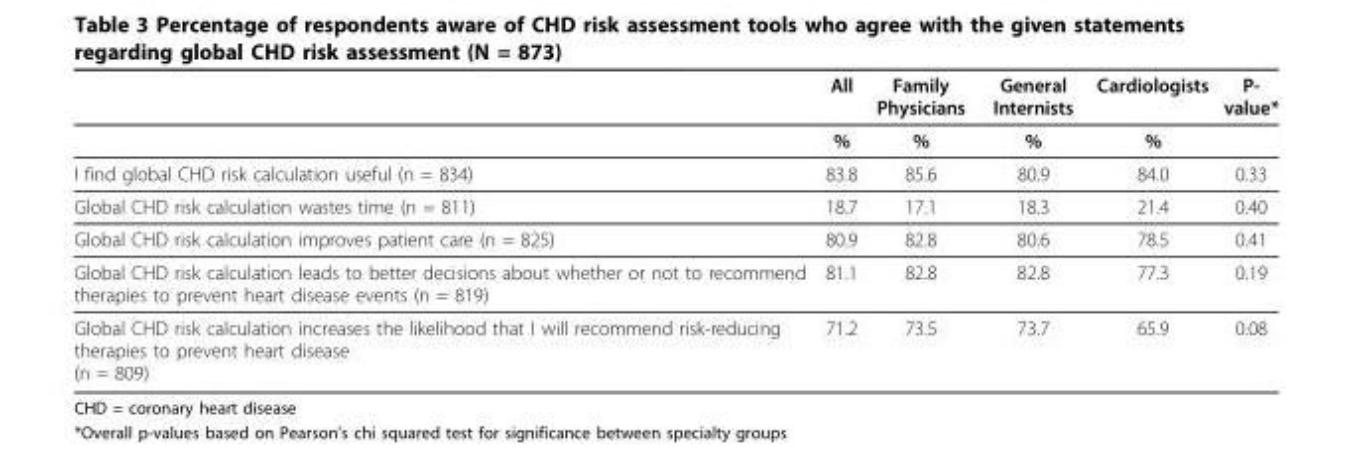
<table><thead><tr><td></td><td>All</td><td>Family Physicians</td><td>General Internists</td><td>Cardiologists</td><td>P- value*</td></tr></thead><tbody><tr><td></td><td>%</td><td>%</td><td>%</td><td>%</td><td></td></tr><tr><td>I find global CHD risk calculation useful (n = 834)</td><td>83.8</td><td>85.6</td><td>80.9</td><td>84.0</td><td>0.33</td></tr><tr><td>Global CHD risk calculation wastes time (n = 811)</td><td>18.7</td><td>17.1</td><td>18.3</td><td>21.4</td><td>0.40</td></tr><tr><td>Global CHD risk calculation improves patient care (n = 825)</td><td>80.9</td><td>82.8</td><td>80.6</td><td>78.5</td><td>0.41</td></tr><tr><td>Global CHD risk calculation leads to better decisions about whether or not to recommend therapies to prevent heart disease events (n = 819)</td><td>81.1</td><td>82.8</td><td>82.8</td><td>77.3</td><td>0.19</td></tr><tr><td>Global CHD risk calculation increases the likelihood that I will recommend risk-reducing therapies to prevent heart disease (n = 809)</td><td>71.2</td><td>73.5</td><td>73.7</td><td>65.9</td><td>0.08</td></tr></tbody></table>